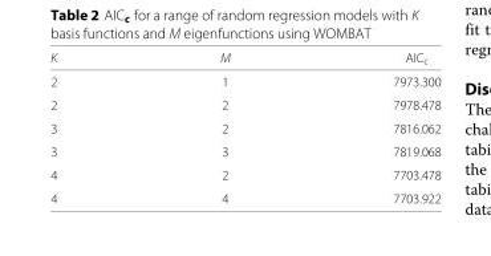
<table><thead><tr><td>K</td><td>M</td><td>AIC<sub>c</sub></td></tr></thead><tbody><tr><td>2</td><td>1</td><td>7973.300</td></tr><tr><td>2</td><td>2</td><td>7978.478</td></tr><tr><td>3</td><td>2</td><td>7816.062</td></tr><tr><td>3</td><td>3</td><td>7819.068</td></tr><tr><td>4</td><td>2</td><td>7703.478</td></tr><tr><td>4</td><td>4</td><td>7703.922</td></tr></tbody></table>